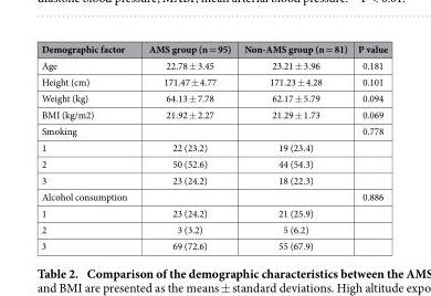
<table><thead><tr><td>Demographic factor</td><td>AMS group (n = 95)</td><td>Non-AMS group (n = 81)</td><td>P value</td></tr></thead><tbody><tr><td>Age</td><td>22.78 ± 3.45</td><td>23.21 ± 3.96</td><td>0.181</td></tr><tr><td>Height (cm)</td><td>171.47 ± 4.77</td><td>171.23 ± 4.28</td><td>0.101</td></tr><tr><td>Weight (kg)</td><td>64.13 ± 7.78</td><td>62.17 ± 5.79</td><td>0.094</td></tr><tr><td>BMI (kg/m2)</td><td>21.92 ± 2.27</td><td>21.29 ± 1.73</td><td>0.069</td></tr><tr><td>Smoking</td><td></td><td></td><td>0.778</td></tr><tr><td>1</td><td>22 (23.2)</td><td>19 (23.4)</td><td></td></tr><tr><td>2</td><td>50 (52.6)</td><td>44 (54.3)</td><td></td></tr><tr><td>3</td><td>23 (24.2)</td><td>18 (22.3)</td><td></td></tr><tr><td>Alcohol consumption</td><td></td><td></td><td>0.886</td></tr><tr><td>1</td><td>23 (24.2)</td><td>21 (25.9)</td><td></td></tr><tr><td>2</td><td>3 (3.2)</td><td>5 (6.2)</td><td></td></tr><tr><td>3</td><td>69 (72.6)</td><td>55 (67.9)</td><td></td></tr></tbody></table>